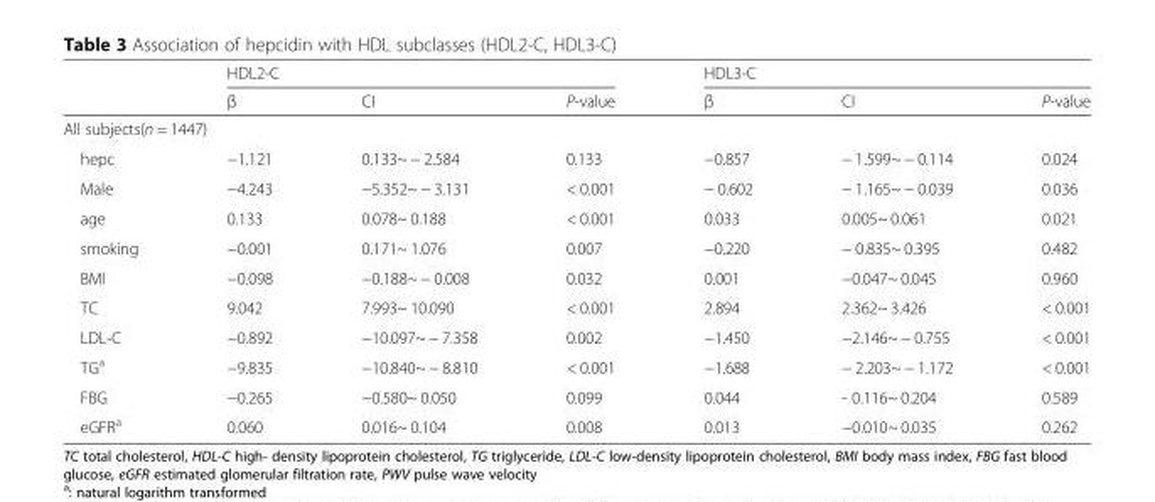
<table><thead><tr><td rowspan="2"></td><td colspan="3">HDL2-C</td><td colspan="3">HDL3-C</td></tr><tr><td>β</td><td>CI</td><td>P-value</td><td>β</td><td>CI</td><td>P-value</td></tr></thead><tbody><tr><td colspan="7">All subjects(n = 1447)</td></tr><tr><td>hepc</td><td>−1.121</td><td>0.133~ − 2.584</td><td>0.133</td><td>−0.857</td><td>− 1.599~ − 0.114</td><td>0.024</td></tr><tr><td>Male</td><td>−4.243</td><td>−5.352~ − 3.131</td><td>&lt; 0.001</td><td>− 0.602</td><td>− 1.165~ − 0.039</td><td>0.036</td></tr><tr><td>age</td><td>0.133</td><td>0.078~ 0.188</td><td>&lt; 0.001</td><td>0.033</td><td>0.005~ 0.061</td><td>0.021</td></tr><tr><td>smoking</td><td>−0.001</td><td>0.171~ 1.076</td><td>0.007</td><td>−0.220</td><td>− 0.835~ 0.395</td><td>0.482</td></tr><tr><td>BMI</td><td>−0.098</td><td>−0.188~ − 0.008</td><td>0.032</td><td>0.001</td><td>−0.047~ 0.045</td><td>0.960</td></tr><tr><td>TC</td><td>9.042</td><td>7.993~ 10.090</td><td>&lt; 0.001</td><td>2.894</td><td>2.362~ 3.426</td><td>&lt; 0.001</td></tr><tr><td>LDL-C</td><td>−0.892</td><td>−10.097~ − 7.358</td><td>0.002</td><td>−1.450</td><td>−2.146~ − 0.755</td><td>&lt; 0.001</td></tr><tr><td>TG<sup>a</sup></td><td>−9.835</td><td>−10.840~ − 8.810</td><td>&lt; 0.001</td><td>−1.688</td><td>− 2.203~ − 1.172</td><td>&lt; 0.001</td></tr><tr><td>FBG</td><td>−0.265</td><td>−0.580~ 0.050</td><td>0.099</td><td>0.044</td><td>- 0.116~ 0.204</td><td>0.589</td></tr><tr><td>eGFR<sup>a</sup></td><td>0.060</td><td>0.016~ 0.104</td><td>0.008</td><td>0.013</td><td>−0.010~ 0.035</td><td>0.262</td></tr></tbody></table>